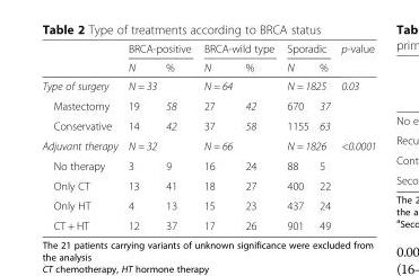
<table><thead><tr><td rowspan="2"></td><td colspan="2">BRCA-positive</td><td colspan="2">BRCA-wild type</td><td colspan="2">Sporadic</td><td rowspan="2">p-value</td></tr><tr><td>N</td><td>%</td><td>N</td><td>%</td><td>N</td><td>%</td></tr></thead><tbody><tr><td>Type of surgery</td><td colspan="2">N = 33</td><td colspan="2">N = 64</td><td colspan="2">N = 1825</td><td>0.03</td></tr><tr><td>Mastectomy</td><td>19</td><td>58</td><td>27</td><td>42</td><td>670</td><td>37</td><td></td></tr><tr><td>Conservative</td><td>14</td><td>42</td><td>37</td><td>58</td><td>1155</td><td>63</td><td></td></tr><tr><td>Adjuvant therapy</td><td colspan="2">N = 32</td><td colspan="2">N = 66</td><td colspan="2">N = 1826</td><td>&lt;0.0001</td></tr><tr><td>No therapy</td><td>3</td><td>9</td><td>16</td><td>24</td><td>88</td><td>5</td><td></td></tr><tr><td>Only CT</td><td>13</td><td>41</td><td>18</td><td>27</td><td>400</td><td>22</td><td></td></tr><tr><td>Only HT</td><td>4</td><td>13</td><td>15</td><td>23</td><td>437</td><td>24</td><td></td></tr><tr><td>CT + HT</td><td>12</td><td>37</td><td>17</td><td>26</td><td>901</td><td>49</td><td></td></tr></tbody></table>